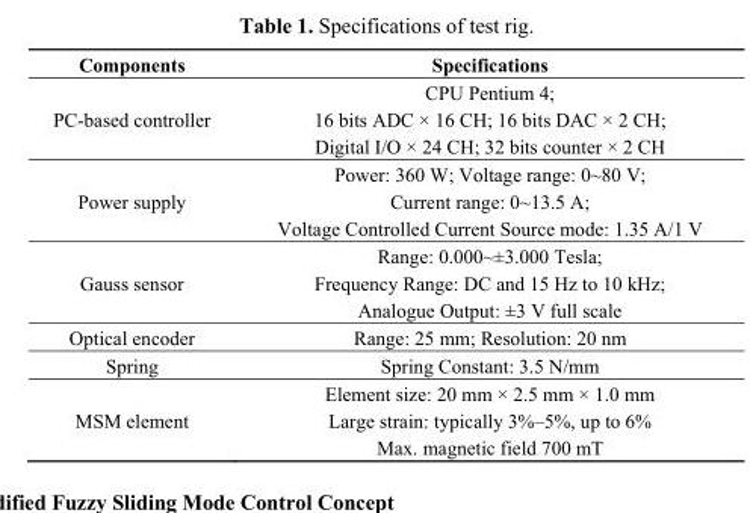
<table><thead><tr><td>Components</td><td>Specifications</td></tr></thead><tbody><tr><td>PC-based controller</td><td>CPU Pentium 4; 16 bits ADC × 16 CH; 16 bits DAC × 2 CH; Digital I/O × 24 CH; 32 bits counter × 2 CH</td></tr><tr><td>Power supply</td><td>Power: 360 W; Voltage range: 0~80 V; Current range: 0~13.5 A; Voltage Controlled Current Source mode: 1.35 A/1 V</td></tr><tr><td>Gauss sensor</td><td>Range: 0.000~±3.000 Tesla; Frequency Range: DC and 15 Hz to 10 kHz; Analogue Output: ±3 V full scale</td></tr><tr><td>Optical encoder</td><td>Range: 25 mm; Resolution: 20 nm</td></tr><tr><td>Spring</td><td>Spring Constant: 3.5 N/mm</td></tr><tr><td>MSM element</td><td>Element size: 20 mm × 2.5 mm × 1.0 mm Large strain: typically 3%–5%, up to 6% Max. magnetic field 700 mT</td></tr></tbody></table>